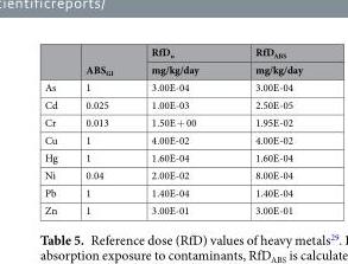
<table><thead><tr><td rowspan="2"></td><td rowspan="2">ABS<sub>GI</sub></td><td rowspan="2">RfD<sub>o</sub> mg/kg/day</td><td rowspan="2">RfD<sub>ABS</sub> mg/kg/day</td></tr><tr></tr></thead><tbody><tr><td>As</td><td>1</td><td>3.00E-04</td><td>3.00E-04</td></tr><tr><td>Cd</td><td>0.025</td><td>1.00E-03</td><td>2.50E-05</td></tr><tr><td>Cr</td><td>0.013</td><td>1.50E + 00</td><td>1.95E-02</td></tr><tr><td>Cu</td><td>1</td><td>4.00E-02</td><td>4.00E-02</td></tr><tr><td>Hg</td><td>1</td><td>1.60E-04</td><td>1.60E-04</td></tr><tr><td>Ni</td><td>0.04</td><td>2.00E-02</td><td>8.00E-04</td></tr><tr><td>Pb</td><td>1</td><td>1.40E-04</td><td>1.40E-04</td></tr><tr><td>Zn</td><td>1</td><td>3.00E-01</td><td>3.00E-01</td></tr></tbody></table>